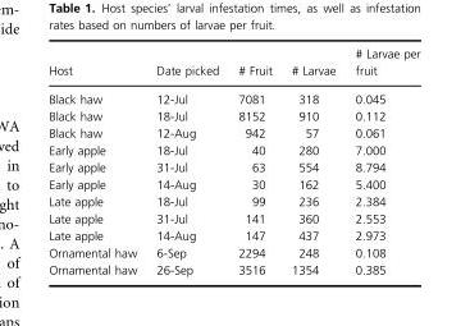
<table><thead><tr><td>Host</td><td>Date picked</td><td># Fruit</td><td># Larvae</td><td># Larvae per fruit</td></tr></thead><tbody><tr><td>Black haw</td><td>12-Jul</td><td>7081</td><td>318</td><td>0.045</td></tr><tr><td>Black haw</td><td>18-Jul</td><td>8152</td><td>910</td><td>0.112</td></tr><tr><td>Black haw</td><td>12-Aug</td><td>942</td><td>57</td><td>0.061</td></tr><tr><td>Early apple</td><td>18-Jul</td><td>40</td><td>280</td><td>7.000</td></tr><tr><td>Early apple</td><td>31-Jul</td><td>63</td><td>554</td><td>8.794</td></tr><tr><td>Early apple</td><td>14-Aug</td><td>30</td><td>162</td><td>5.400</td></tr><tr><td>Late apple</td><td>18-Jul</td><td>99</td><td>236</td><td>2.384</td></tr><tr><td>Late apple</td><td>31-Jul</td><td>141</td><td>360</td><td>2.553</td></tr><tr><td>Late apple</td><td>14-Aug</td><td>147</td><td>437</td><td>2.973</td></tr><tr><td>Ornamental haw</td><td>6-Sep</td><td>2294</td><td>248</td><td>0.108</td></tr><tr><td>Ornamental haw</td><td>26-Sep</td><td>3516</td><td>1354</td><td>0.385</td></tr></tbody></table>